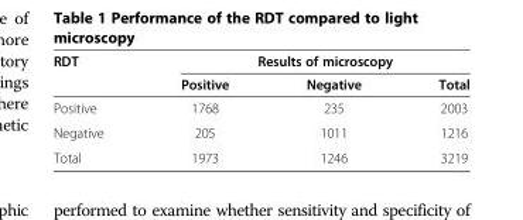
<table><thead><tr><td rowspan="2">RDT</td><td colspan="3">Results of microscopy</td></tr><tr><td>Positive</td><td>Negative</td><td>Total</td></tr></thead><tbody><tr><td>Positive</td><td>1768</td><td>235</td><td>2003</td></tr><tr><td>Negative</td><td>205</td><td>1011</td><td>1216</td></tr><tr><td>Total</td><td>1973</td><td>1246</td><td>3219</td></tr></tbody></table>